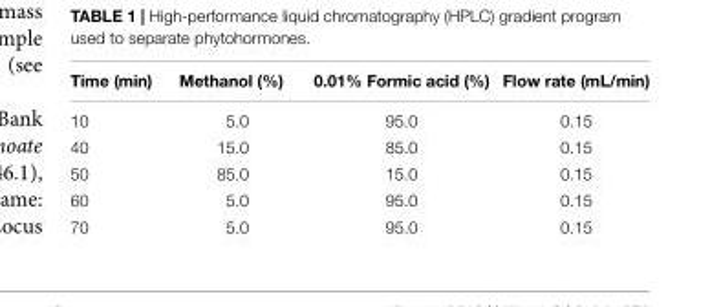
<table><thead><tr><td>Time (min)</td><td>Methanol (%)</td><td>0.01% Formic acid (%)</td><td>Flow rate (mL/min)</td></tr></thead><tbody><tr><td>10</td><td>5.0</td><td>95.0</td><td>0.15</td></tr><tr><td>40</td><td>15.0</td><td>85.0</td><td>0.15</td></tr><tr><td>50</td><td>85.0</td><td>15.0</td><td>0.15</td></tr><tr><td>60</td><td>5.0</td><td>95.0</td><td>0.15</td></tr><tr><td>70</td><td>5.0</td><td>95.0</td><td>0.15</td></tr></tbody></table>